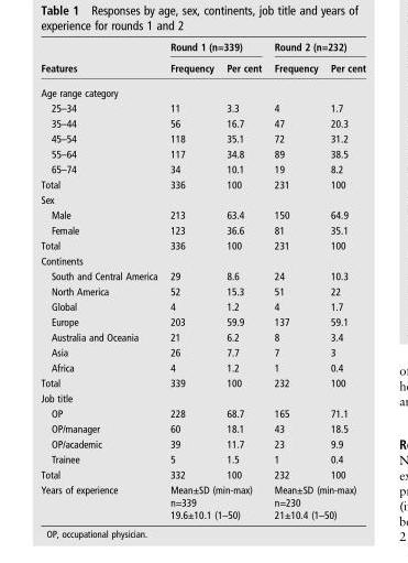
<table><thead><tr><td rowspan="2">Features</td><td colspan="2">Round 1 (n=339)</td><td colspan="2">Round 2 (n=232)</td></tr><tr><td>Frequency</td><td>Per cent</td><td>Frequency</td><td>Per cent</td></tr></thead><tbody><tr><td colspan="5">Age range category</td></tr><tr><td>25–34</td><td>11</td><td>3.3</td><td>4</td><td>1.7</td></tr><tr><td>35–44</td><td>56</td><td>16.7</td><td>47</td><td>20.3</td></tr><tr><td>45–54</td><td>118</td><td>35.1</td><td>72</td><td>31.2</td></tr><tr><td>55–64</td><td>117</td><td>34.8</td><td>89</td><td>38.5</td></tr><tr><td>65–74</td><td>34</td><td>10.1</td><td>19</td><td>8.2</td></tr><tr><td>Total</td><td>336</td><td>100</td><td>231</td><td>100</td></tr><tr><td colspan="5">Sex</td></tr><tr><td>Male</td><td>213</td><td>63.4</td><td>150</td><td>64.9</td></tr><tr><td>Female</td><td>123</td><td>36.6</td><td>81</td><td>35.1</td></tr><tr><td>Total</td><td>336</td><td>100</td><td>231</td><td>100</td></tr><tr><td colspan="5">Continents</td></tr><tr><td>South and Central America</td><td>29</td><td>8.6</td><td>24</td><td>10.3</td></tr><tr><td>North America</td><td>52</td><td>15.3</td><td>51</td><td>22</td></tr><tr><td>Global</td><td>4</td><td>1.2</td><td>4</td><td>1.7</td></tr><tr><td>Europe</td><td>203</td><td>59.9</td><td>137</td><td>59.1</td></tr><tr><td>Australia and Oceania</td><td>21</td><td>6.2</td><td>8</td><td>3.4</td></tr><tr><td>Asia</td><td>26</td><td>7.7</td><td>7</td><td>3</td></tr><tr><td>Africa</td><td>4</td><td>1.2</td><td>1</td><td>0.4</td></tr><tr><td>Total</td><td>339</td><td>100</td><td>232</td><td>100</td></tr><tr><td colspan="5">Job title</td></tr><tr><td>OP</td><td>228</td><td>68.7</td><td>165</td><td>71.1</td></tr><tr><td>OP/manager</td><td>60</td><td>18.1</td><td>43</td><td>18.5</td></tr><tr><td>OP/academic</td><td>39</td><td>11.7</td><td>23</td><td>9.9</td></tr><tr><td>Trainee</td><td>5</td><td>1.5</td><td>1</td><td>0.4</td></tr><tr><td>Total</td><td>332</td><td>100</td><td>232</td><td>100</td></tr><tr><td>Years of experience</td><td colspan="2">Mean±SD (min-max) n=339 19.6±10.1 (1–50)</td><td colspan="2">Mean±SD (min-max) n=230 21±10.4 (1–50)</td></tr></tbody></table>